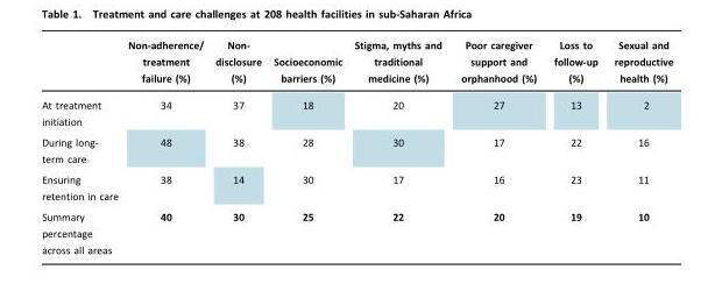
<table><thead><tr><td></td><td>Non-adherence/ treatment failure (%)</td><td>Non- disclosure (%)</td><td>Socioeconomic barriers (%)</td><td>Stigma, myths and traditional medicine (%)</td><td>Poor caregiver support and orphanhood (%)</td><td>Loss to follow-up (%)</td><td>Sexual and reproductive health (%)</td></tr></thead><tbody><tr><td>At treatment initiation</td><td>34</td><td>37</td><td>18</td><td>20</td><td>27</td><td>13</td><td>2</td></tr><tr><td>During long- term care</td><td>48</td><td>38</td><td>28</td><td>30</td><td>17</td><td>22</td><td>16</td></tr><tr><td>Ensuring retention in care</td><td>38</td><td>14</td><td>30</td><td>17</td><td>16</td><td>23</td><td>11</td></tr><tr><td>Summary percentage across all areas</td><td>40</td><td>30</td><td>25</td><td>22</td><td>20</td><td>19</td><td>10</td></tr></tbody></table>